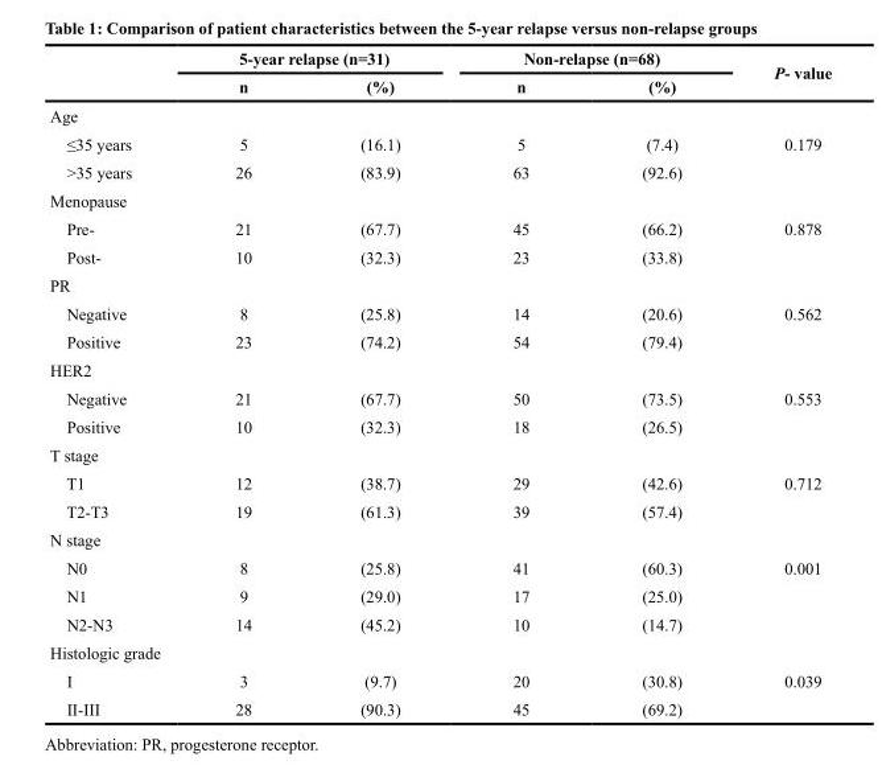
<table><thead><tr><td rowspan="2"></td><td colspan="2">5-year relapse (n=31)</td><td colspan="2">Non-relapse (n=68)</td><td rowspan="2">P- value</td></tr><tr><td>n</td><td>(%)</td><td>n</td><td>(%)</td></tr></thead><tbody><tr><td colspan="6">Age</td></tr><tr><td>≤35 years</td><td>5</td><td>(16.1)</td><td>5</td><td>(7.4)</td><td>0.179</td></tr><tr><td>&gt;35 years</td><td>26</td><td>(83.9)</td><td>63</td><td>(92.6)</td><td></td></tr><tr><td colspan="6">Menopause</td></tr><tr><td>Pre-</td><td>21</td><td>(67.7)</td><td>45</td><td>(66.2)</td><td>0.878</td></tr><tr><td>Post-</td><td>10</td><td>(32.3)</td><td>23</td><td>(33.8)</td><td></td></tr><tr><td colspan="6">PR</td></tr><tr><td>Negative</td><td>8</td><td>(25.8)</td><td>14</td><td>(20.6)</td><td>0.562</td></tr><tr><td>Positive</td><td>23</td><td>(74.2)</td><td>54</td><td>(79.4)</td><td></td></tr><tr><td colspan="6">HER2</td></tr><tr><td>Negative</td><td>21</td><td>(67.7)</td><td>50</td><td>(73.5)</td><td>0.553</td></tr><tr><td>Positive</td><td>10</td><td>(32.3)</td><td>18</td><td>(26.5)</td><td></td></tr><tr><td colspan="6">T stage</td></tr><tr><td>T1</td><td>12</td><td>(38.7)</td><td>29</td><td>(42.6)</td><td>0.712</td></tr><tr><td>T2-T3</td><td>19</td><td>(61.3)</td><td>39</td><td>(57.4)</td><td></td></tr><tr><td colspan="6">N stage</td></tr><tr><td>N0</td><td>8</td><td>(25.8)</td><td>41</td><td>(60.3)</td><td>0.001</td></tr><tr><td>N1</td><td>9</td><td>(29.0)</td><td>17</td><td>(25.0)</td><td></td></tr><tr><td>N2-N3</td><td>14</td><td>(45.2)</td><td>10</td><td>(14.7)</td><td></td></tr><tr><td colspan="6">Histologic grade</td></tr><tr><td>I</td><td>3</td><td>(9.7)</td><td>20</td><td>(30.8)</td><td>0.039</td></tr><tr><td>II-III</td><td>28</td><td>(90.3)</td><td>45</td><td>(69.2)</td><td></td></tr></tbody></table>